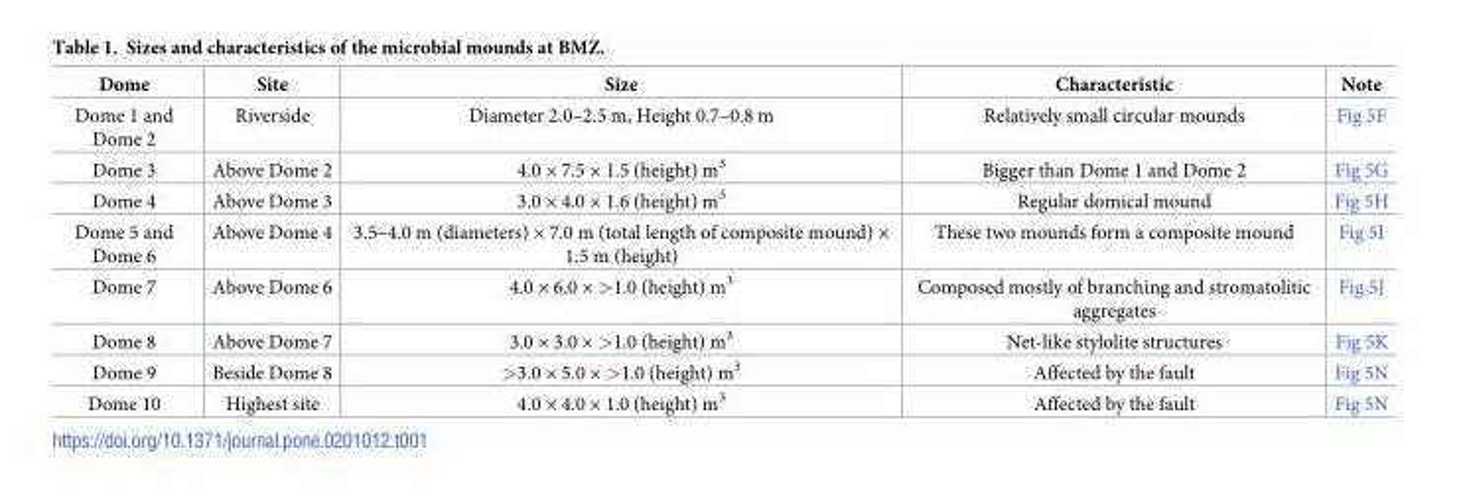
<table><thead><tr><td>Dome</td><td>Site</td><td>Size</td><td>Characteristic</td><td>Note</td></tr></thead><tbody><tr><td>Dome 1 and Dome 2</td><td>Riverside</td><td>Diameter 2.0–2.5 m, Height 0.7–0.8 m</td><td>Relatively small circular mounds</td><td>Fig 5F</td></tr><tr><td>Dome 3</td><td>Above Dome 2</td><td>4.0 × 7.5 × 1.5 (height) m<sup>3</sup></td><td>Bigger than Dome 1 and Dome 2</td><td>Fig 5G</td></tr><tr><td>Dome 4</td><td>Above Dome 3</td><td>3.0 × 4.0 × 1.6 (height) m<sup>3</sup></td><td>Regular domical mound</td><td>Fig 5H</td></tr><tr><td>Dome 5 and Dome 6</td><td>Above Dome 4</td><td>3.5–4.0 m (diameters) × 7.0 m (total length of composite mound) × 1.5 m (height)</td><td>These two mounds form a composite mound</td><td>Fig 5I</td></tr><tr><td>Dome 7</td><td>Above Dome 6</td><td>4.0 × 6.0 × &gt;1.0 (height) m<sup>3</sup></td><td>Composed mostly of branching and stromatolitic aggregates</td><td>Fig 5J</td></tr><tr><td>Dome 8</td><td>Above Dome 7</td><td>3.0 × 3.0 × &gt;1.0 (height) m<sup>3</sup></td><td>Net-like stylolite structures</td><td>Fig 5K</td></tr><tr><td>Dome 9</td><td>Beside Dome 8</td><td>&gt;3.0 × 5.0 × &gt;1.0 (height) m<sup>3</sup></td><td>Affected by the fault</td><td>Fig 5N</td></tr><tr><td>Dome 10</td><td>Highest site</td><td>4.0 × 4.0 × 1.0 (height) m<sup>3</sup></td><td>Affected by the fault</td><td>Fig 5N</td></tr></tbody></table>